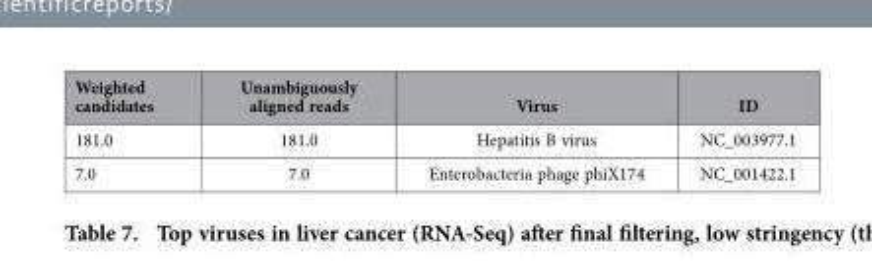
<table><thead><tr><td>Weighted candidates</td><td>Unambiguously aligned reads</td><td>Virus</td><td>ID</td></tr></thead><tbody><tr><td>181.0</td><td>181.0</td><td>Hepatitis B virus</td><td>NC_003977.1</td></tr><tr><td>7.0</td><td>7.0</td><td>Enterobacteria phage phiX174</td><td>NC_001422.1</td></tr></tbody></table>